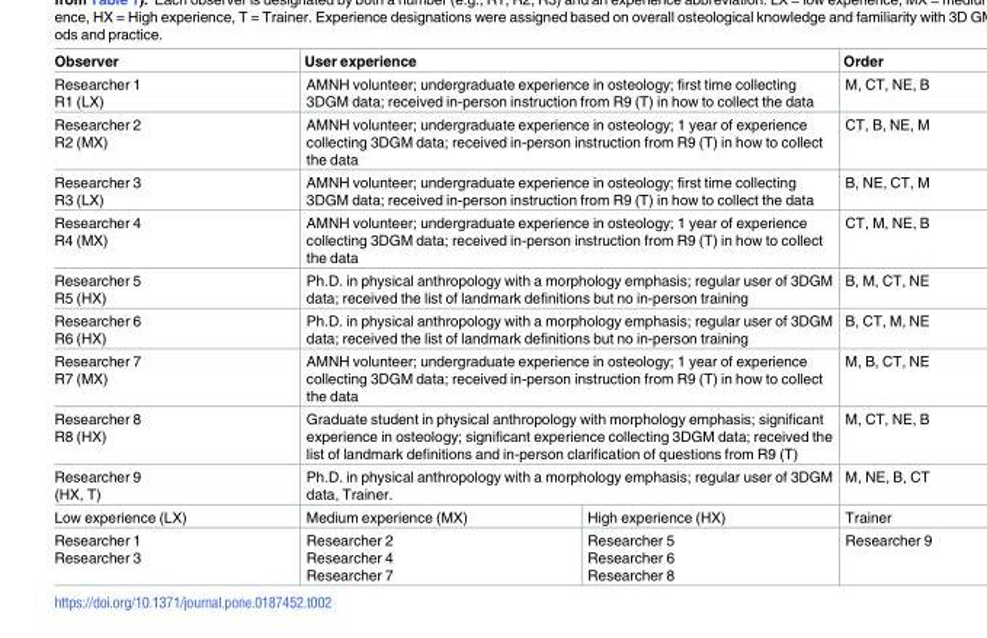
<table><thead><tr><td>Observer</td><td colspan="2">User experience</td><td>Order</td></tr></thead><tbody><tr><td>Researcher 1 R1 (LX)</td><td colspan="2">AMNH volunteer; undergraduate experience in osteology; first time collecting 3DGM data; received in-person instruction from R9 (T) in how to collect the data</td><td>M, CT, NE, B</td></tr><tr><td>Researcher 2 R2 (MX)</td><td colspan="2">AMNH volunteer; undergraduate experience in osteology; 1 year of experience collecting 3DGM data; received in-person instruction from R9 (T) in how to collect the data</td><td>CT, B, NE, M</td></tr><tr><td>Researcher 3 R3 (LX)</td><td colspan="2">AMNH volunteer; undergraduate experience in osteology; first time collecting 3DGM data; received in-person instruction from R9 (T) in how to collect the data</td><td>B, NE, CT, M</td></tr><tr><td>Researcher 4 R4 (MX)</td><td colspan="2">AMNH volunteer; undergraduate experience in osteology; 1 year of experience collecting 3DGM data; received in-person instruction from R9 (T) in how to collect the data</td><td>CT, M, NE, B</td></tr><tr><td>Researcher 5 R5 (HX)</td><td colspan="2">Ph.D. in physical anthropology with a morphology emphasis; regular user of 3DGM data; received the list of landmark definitions but no in-person training</td><td>B, M, CT, NE</td></tr><tr><td>Researcher 6 R6 (HX)</td><td colspan="2">Ph.D. in physical anthropology with a morphology emphasis; regular user of 3DGM data; received the list of landmark definitions but no in-person training</td><td>B, CT, M, NE</td></tr><tr><td>Researcher 7 R7 (MX)</td><td colspan="2">AMNH volunteer; undergraduate experience in osteology; 1 year of experience collecting 3DGM data; received in-person instruction from R9 (T) in how to collect the data</td><td>M, B, CT, NE</td></tr><tr><td>Researcher 8 R8 (HX)</td><td colspan="2">Graduate student in physical anthropology with morphology emphasis; significant experience in osteology; significant experience collecting 3DGM data; received the list of landmark definitions and in-person clarification of questions from R9 (T)</td><td>M, CT, NE, B</td></tr><tr><td>Researcher 9 (HX, T)</td><td colspan="2">Ph.D. in physical anthropology with a morphology emphasis; regular user of 3DGM data, Trainer.</td><td>M, NE, B, CT</td></tr><tr><td>Low experience (LX)</td><td>Medium experience (MX)</td><td>High experience (HX)</td><td>Trainer</td></tr><tr><td>Researcher 1 Researcher 3</td><td>Researcher 2 Researcher 4 Researcher 7</td><td>Researcher 5 Researcher 6 Researcher 8</td><td>Researcher 9</td></tr></tbody></table>